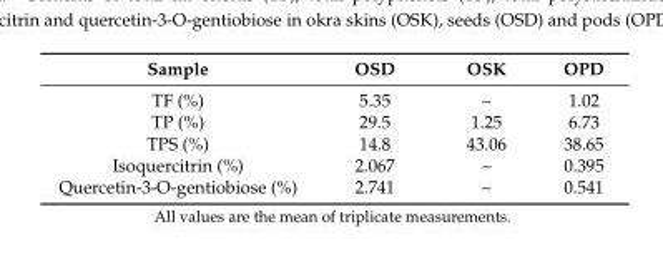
<table><thead><tr><td>Sample</td><td>OSD</td><td>OSK</td><td>OPD</td></tr></thead><tbody><tr><td>TF (%)</td><td>5.35</td><td>~</td><td>1.02</td></tr><tr><td>TP (%)</td><td>29.5</td><td>1.25</td><td>6.73</td></tr><tr><td>TPS (%)</td><td>14.8</td><td>43.06</td><td>38.65</td></tr><tr><td>Isoquercitrin (%)</td><td>2.067</td><td>~</td><td>0.395</td></tr><tr><td>Quercetin-3-O-gentiobiose (%)</td><td>2.741</td><td>~</td><td>0.541</td></tr></tbody></table>